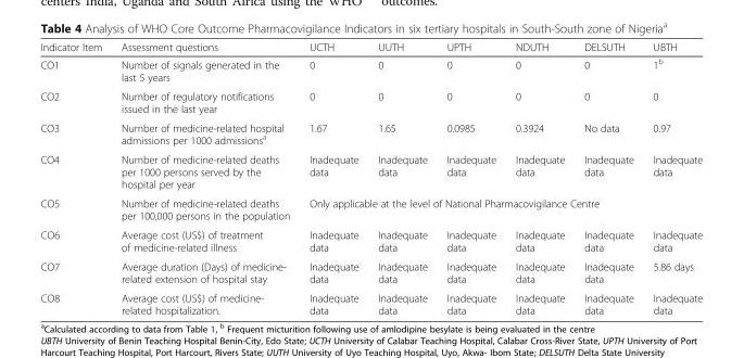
<table><thead><tr><td>Indicator Item</td><td>Assessment questions</td><td>UCTH</td><td>UUTH</td><td>UPTH</td><td>NDUTH</td><td>DELSUTH</td><td>UBTH</td></tr></thead><tbody><tr><td>CO1</td><td>Number of signals generated in the last 5 years</td><td>0</td><td>0</td><td>0</td><td>0</td><td>0</td><td>1<sup>b</sup></td></tr><tr><td>CO2</td><td>Number of regulatory notifications issued in the last year</td><td>0</td><td>0</td><td>0</td><td>0</td><td>0</td><td>0</td></tr><tr><td>CO3</td><td>Number of medicine-related hospital admissions per 1000 admissions<sup>a</sup></td><td>1.67</td><td>1.65</td><td>0.0985</td><td>0.3924</td><td>No data</td><td>0.97</td></tr><tr><td>CO4</td><td>Number of medicine-related deaths per 1000 persons served by the hospital per year</td><td>Inadequate data</td><td>Inadequate data</td><td>Inadequate data</td><td>Inadequate data</td><td>Inadequate data</td><td>Inadequate data</td></tr><tr><td>CO5</td><td>Number of medicine-related deaths per 100,000 persons in the population</td><td colspan="6">Only applicable at the level of National Pharmacovigilance Centre</td></tr><tr><td>CO6</td><td>Average cost (US$) of treatment of medicine-related illness</td><td>Inadequate data</td><td>Inadequate data</td><td>Inadequate data</td><td>Inadequate data</td><td>Inadequate data</td><td>Inadequate data</td></tr><tr><td>CO7</td><td>Average duration (Days) of medicine- related extension of hospital stay</td><td>Inadequate data</td><td>Inadequate data</td><td>Inadequate data</td><td>Inadequate data</td><td>Inadequate data</td><td>5.86 days</td></tr><tr><td>CO8</td><td>Average cost (US$) of medicine- related hospitalization.</td><td>Inadequate data</td><td>Inadequate data</td><td>Inadequate data</td><td>Inadequate data</td><td>Inadequate data</td><td>Inadequate data</td></tr></tbody></table>